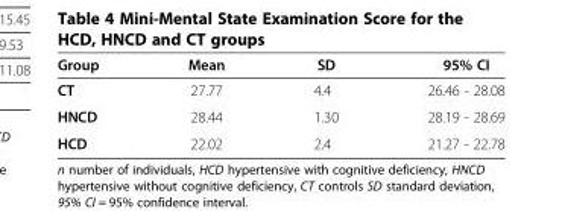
<table><thead><tr><td>Group</td><td>Mean</td><td>SD</td><td>95% CI</td></tr></thead><tbody><tr><td>CT</td><td>27.77</td><td>4.4</td><td>26.46 - 28.08</td></tr><tr><td>HNCD</td><td>28.44</td><td>1.30</td><td>28.19 - 28.69</td></tr><tr><td>HCD</td><td>22.02</td><td>2.4</td><td>21.27 - 22.78</td></tr></tbody></table>